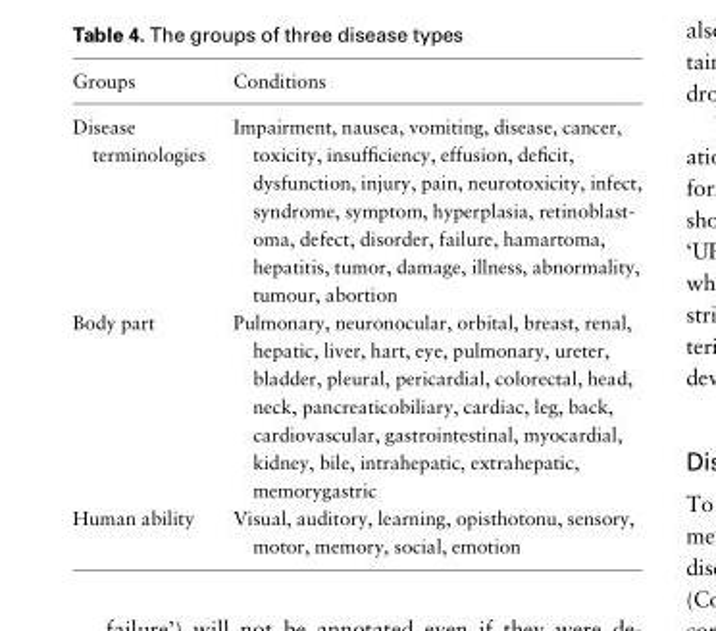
<table><thead><tr><td>Groups</td><td>Conditions</td></tr></thead><tbody><tr><td>Disease terminologies</td><td>Impairment, nausea, vomiting, disease, cancer, toxicity, insufficiency, effusion, deficit, dysfunction, injury, pain, neurotoxicity, infect, syndrome, symptom, hyperplasia, retinoblast- oma, defect, disorder, failure, hamartoma, hepatitis, tumor, damage, illness, abnormality, tumour, abortion</td></tr><tr><td>Body part</td><td>Pulmonary, neuronocular, orbital, breast, renal, hepatic, liver, hart, eye, pulmonary, ureter, bladder, pleural, pericardial, colorectal, head, neck, pancreaticobiliary, cardiac, leg, back, cardiovascular, gastrointestinal, myocardial, kidney, bile, intrahepatic, extrahepatic, memorygastric</td></tr><tr><td>Human ability</td><td>Visual, auditory, learning, opisthotonu, sensory, motor, memory, social, emotion</td></tr></tbody></table>